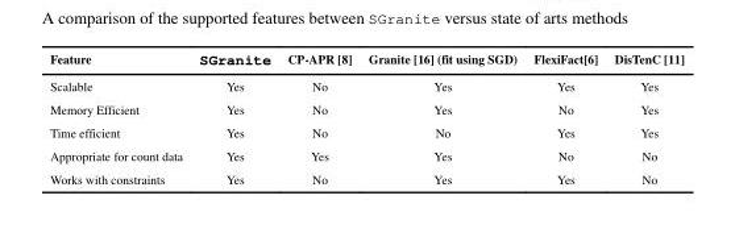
<table><thead><tr><td>Feature</td><td>SGranite</td><td>CP-APR [8]</td><td>Granite [16] (fit using SGD)</td><td>FlexiFact[6]</td><td>DisTenC [11]</td></tr></thead><tbody><tr><td>Scalable</td><td>Yes</td><td>No</td><td>Yes</td><td>Yes</td><td>Yes</td></tr><tr><td>Memory Efficient</td><td>Yes</td><td>No</td><td>Yes</td><td>No</td><td>Yes</td></tr><tr><td>Time efficient</td><td>Yes</td><td>No</td><td>No</td><td>Yes</td><td>Yes</td></tr><tr><td>Appropriate for count data</td><td>Yes</td><td>Yes</td><td>Yes</td><td>No</td><td>No</td></tr><tr><td>Works with constraints</td><td>Yes</td><td>No</td><td>Yes</td><td>Yes</td><td>No</td></tr></tbody></table>